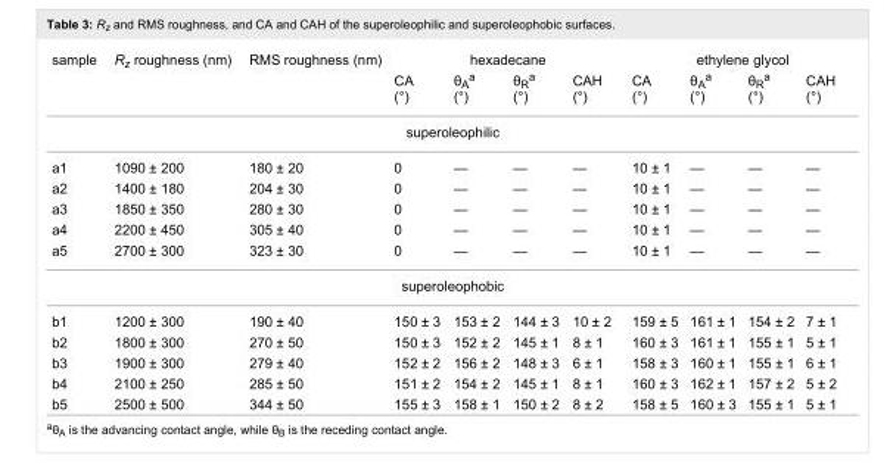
<table><tbody><tr><td rowspan="2">sample</td><td rowspan="2">R<sub>z</sub> roughness (nm)</td><td rowspan="2">RMS roughness (nm)</td><td colspan="4">hexadecane</td><td colspan="4">ethylene glycol</td></tr><tr><td>CA (°)</td><td>θ<sub>A</sub><sup>a</sup> (°)</td><td>θ<sub>R</sub><sup>a</sup> (°)</td><td>CAH (°)</td><td>CA (°)</td><td>θ<sub>A</sub><sup>a</sup> (°)</td><td>θ<sub>R</sub><sup>a</sup> (°)</td><td>CAH (°)</td></tr><tr><td colspan="11">superoleophilic</td></tr><tr><td>a1</td><td>1090 ± 200</td><td>180 ± 20</td><td>0</td><td>—</td><td>—</td><td>—</td><td>10 ± 1</td><td>—</td><td>—</td><td>—</td></tr><tr><td>a2</td><td>1400 ± 180</td><td>204 ± 30</td><td>0</td><td>—</td><td>—</td><td>—</td><td>10 ± 1</td><td>—</td><td>—</td><td>—</td></tr><tr><td>a3</td><td>1850 ± 350</td><td>280 ± 30</td><td>0</td><td>—</td><td>—</td><td>—</td><td>10 ± 1</td><td>—</td><td>—</td><td>—</td></tr><tr><td>a4</td><td>2200 ± 450</td><td>305 ± 40</td><td>0</td><td>—</td><td>—</td><td>—</td><td>10 ± 1</td><td>—</td><td>—</td><td>—</td></tr><tr><td>a5</td><td>2700 ± 300</td><td>323 ± 30</td><td>0</td><td>—</td><td>—</td><td>—</td><td>10 ± 1</td><td>—</td><td>—</td><td>—</td></tr><tr><td colspan="11">superoleophobic</td></tr><tr><td>b1</td><td>1200 ± 300</td><td>190 ± 40</td><td>150 ± 3</td><td>153 ± 2</td><td>144 ± 3</td><td>10 ± 2</td><td>159 ± 5</td><td>161 ± 1</td><td>154 ± 2</td><td>7 ± 1</td></tr><tr><td>b2</td><td>1800 ± 300</td><td>270 ± 50</td><td>150 ± 3</td><td>152 ± 2</td><td>145 ± 1</td><td>8 ± 1</td><td>160 ± 3</td><td>161 ± 1</td><td>155 ± 1</td><td>5 ± 1</td></tr><tr><td>b3</td><td>1900 ± 300</td><td>279 ± 40</td><td>152 ± 2</td><td>156 ± 2</td><td>148 ± 3</td><td>6 ± 1</td><td>158 ± 3</td><td>160 ± 1</td><td>155 ± 1</td><td>6 ± 1</td></tr><tr><td>b4</td><td>2100 ± 250</td><td>285 ± 50</td><td>151 ± 2</td><td>154 ± 2</td><td>145 ± 1</td><td>8 ± 1</td><td>160 ± 3</td><td>162 ± 1</td><td>157 ± 2</td><td>5 ± 2</td></tr><tr><td>b5</td><td>2500 ± 500</td><td>344 ± 50</td><td>155 ± 3</td><td>158 ± 1</td><td>150 ± 2</td><td>8 ± 2</td><td>158 ± 5</td><td>160 ± 3</td><td>155 ± 1</td><td>5 ± 1</td></tr></tbody></table>